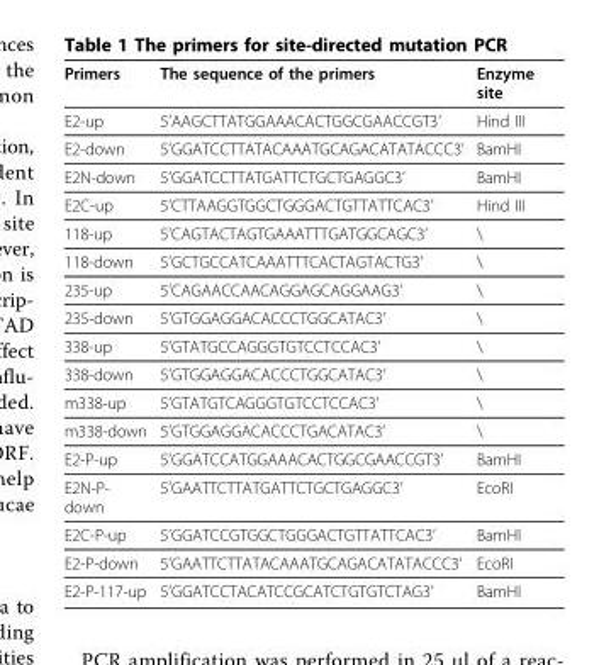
<table><thead><tr><td>Primers</td><td>The sequence of the primers</td><td>Enzyme site</td></tr></thead><tbody><tr><td>E2-up</td><td>5’AAGCTTATGGAAACACTGGCGAACCGT3’</td><td>Hind III</td></tr><tr><td>E2-down</td><td>5’GGATCCTTATACAAATGCAGACATATACCC3’</td><td>BamHI</td></tr><tr><td>E2N-down</td><td>5’GGATCCTTATGATTCTGCTGAGGC3’</td><td>BamHI</td></tr><tr><td>E2C-up</td><td>5’CTTAAGGTGGCTGGGACTGTTATTCAC3’</td><td>Hind III</td></tr><tr><td>118-up</td><td>5’CAGTACTAGTGAAATTTGATGGCAGC3’</td><td>\</td></tr><tr><td>118-down</td><td>5’GCTGCCATCAAATTTCACTAGTACTG3’</td><td>\</td></tr><tr><td>235-up</td><td>5’CAGAACCAACAGGAGCAGGAAG3’</td><td>\</td></tr><tr><td>235-down</td><td>5’GTGGAGGACACCCTGGCATAC3’</td><td>\</td></tr><tr><td>338-up</td><td>5’GTATGCCAGGGTGTCCTCCAC3’</td><td>\</td></tr><tr><td>338-down</td><td>5’GTGGAGGACACCCTGGCATAC3’</td><td>\</td></tr><tr><td>m338-up</td><td>5’GTATGTCAGGGTGTCCTCCAC3’</td><td>\</td></tr><tr><td>m338-down</td><td>5’GTGGAGGACACCCTGACATAC3’</td><td>\</td></tr><tr><td>E2-P-up</td><td>5’GGATCCATGGAAACACTGGCGAACCGT3’</td><td>BamHI</td></tr><tr><td>E2N-P- down</td><td>5’GAATTCTTATGATTCTGCTGAGGC3’</td><td>EcoRI</td></tr><tr><td>E2C-P-up</td><td>5’GGATCCGTGGCTGGGACTGTTATTCAC3’</td><td>BamHI</td></tr><tr><td>E2-P-down</td><td>5’GAATTCTTATACAAATGCAGACATATACCC3’</td><td>EcoRI</td></tr><tr><td>E2-P-117-up</td><td>5’GGATCCTACATCCGCATCTGTGTCTAG3’</td><td>BamHI</td></tr></tbody></table>